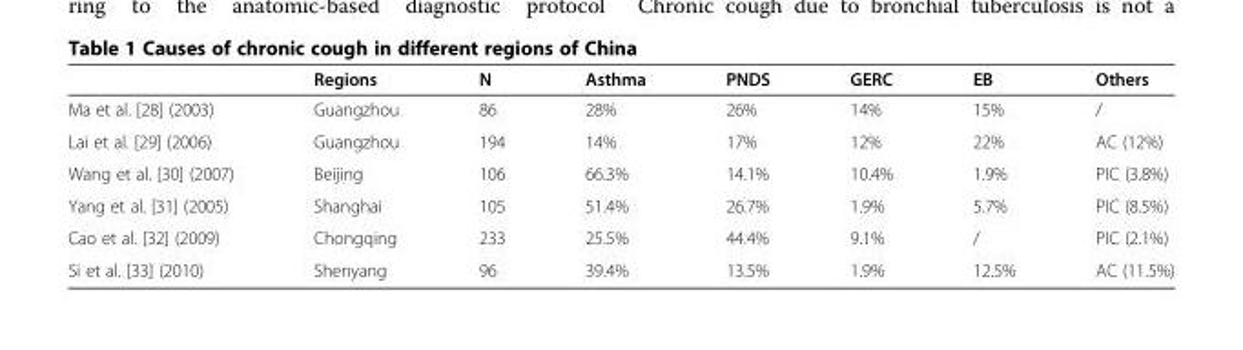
<table><thead><tr><td></td><td>Regions</td><td>N</td><td>Asthma</td><td>PNDS</td><td>GERC</td><td>EB</td><td>Others</td></tr></thead><tbody><tr><td>Ma et al. [28] (2003)</td><td>Guangzhou</td><td>86</td><td>28%</td><td>26%</td><td>14%</td><td>15%</td><td>/</td></tr><tr><td>Lai et al. [29] (2006)</td><td>Guangzhou</td><td>194</td><td>14%</td><td>17%</td><td>12%</td><td>22%</td><td>AC (12%)</td></tr><tr><td>Wang et al. [30] (2007)</td><td>Beijing</td><td>106</td><td>66.3%</td><td>14.1%</td><td>10.4%</td><td>1.9%</td><td>PIC (3.8%)</td></tr><tr><td>Yang et al. [31] (2005)</td><td>Shanghai</td><td>105</td><td>51.4%</td><td>26.7%</td><td>1.9%</td><td>5.7%</td><td>PIC (8.5%)</td></tr><tr><td>Cao et al. [32] (2009)</td><td>Chongqing</td><td>233</td><td>25.5%</td><td>44.4%</td><td>9.1%</td><td>/</td><td>PIC (2.1%)</td></tr><tr><td>Si et al. [33] (2010)</td><td>Shenyang</td><td>96</td><td>39.4%</td><td>13.5%</td><td>1.9%</td><td>12.5%</td><td>AC (11.5%)</td></tr></tbody></table>